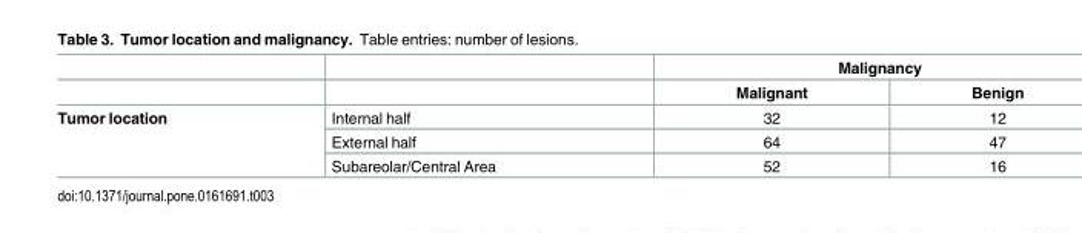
<table><thead><tr><td rowspan="2"></td><td rowspan="2"></td><td colspan="2">Malignancy</td></tr><tr><td>Malignant</td><td>Benign</td></tr></thead><tbody><tr><td rowspan="3">Tumor location</td><td>Internal half</td><td>32</td><td>12</td></tr><tr><td>External half</td><td>64</td><td>47</td></tr><tr><td>Subareolar/Central Area</td><td>52</td><td>16</td></tr></tbody></table>